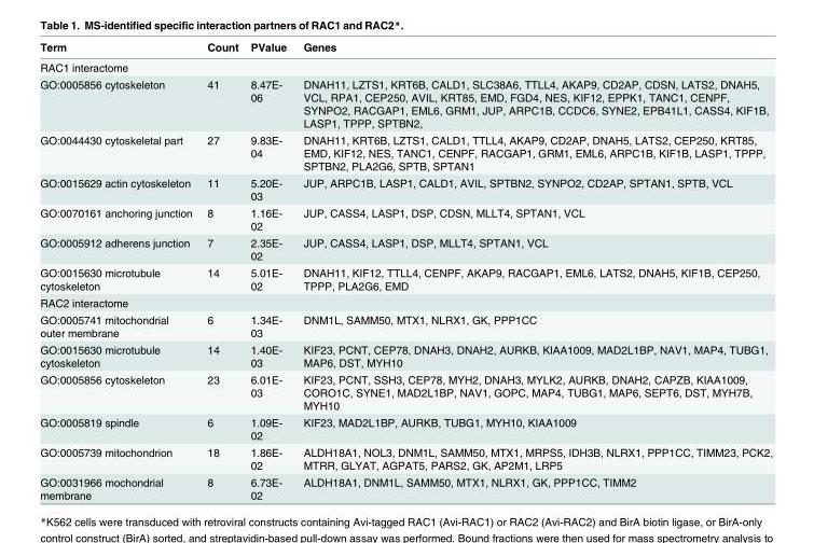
<table><thead><tr><td>Term</td><td>Count</td><td>PValue</td><td>Genes</td></tr></thead><tbody><tr><td colspan="4">RAC1 interactome</td></tr><tr><td>GO:0005856 cytoskeleton</td><td>41</td><td>8.47E- 06</td><td>DNAH11, LZTS1, KRT6B, CALD1, SLC38A6, TTLL4, AKAP9, CD2AP, CDSN, LATS2, DNAH5, VCL, RPA1, CEP250, AVIL, KRT85, EMD, FGD4, NES, KIF12, EPPK1, TANC1, CENPF, SYNPO2, RACGAP1, EML6, GRM1, JUP, ARPC1B, CCDC6, SYNE2, EPB41L1, CASS4, KIF1B, LASP1, TPPP, SPTBN2,</td></tr><tr><td>GO:0044430 cytoskeletal part</td><td>27</td><td>9.83E- 04</td><td>DNAH11, KRT6B, LZTS1, CALD1, TTLL4, AKAP9, CD2AP, DNAH5, LATS2, CEP250, KRT85, EMD, KIF12, NES, TANC1, CENPF, RACGAP1, GRM1, EML6, ARPC1B, KIF1B, LASP1, TPPP, SPTBN2, PLA2G6, SPTB, SPTAN1</td></tr><tr><td>GO:0015629 actin cytoskeleton</td><td>11</td><td>5.20E- 03</td><td>JUP, ARPC1B, LASP1, CALD1, AVIL, SPTBN2, SYNPO2, CD2AP, SPTAN1, SPTB, VCL</td></tr><tr><td>GO:0070161 anchoring junction</td><td>8</td><td>1.16E- 02</td><td>JUP, CASS4, LASP1, DSP, CDSN, MLLT4, SPTAN1, VCL</td></tr><tr><td>GO:0005912 adherens junction</td><td>7</td><td>2.35E- 02</td><td>JUP, CASS4, LASP1, DSP, MLLT4, SPTAN1, VCL</td></tr><tr><td>GO:0015630 microtubule cytoskeleton</td><td>14</td><td>5.01E- 02</td><td>DNAH11, KIF12, TTLL4, CENPF, AKAP9, RACGAP1, EML6, LATS2, DNAH5, KIF1B, CEP250, TPPP, PLA2G6, EMD</td></tr><tr><td colspan="4">RAC2 interactome</td></tr><tr><td>GO:0005741 mitochondrial outer membrane</td><td>6</td><td>1.34E- 03</td><td>DNM1L, SAMM50, MTX1, NLRX1, GK, PPP1CC</td></tr><tr><td>GO:0015630 microtubule cytoskeleton</td><td>14</td><td>1.40E- 03</td><td>KIF23, PCNT, CEP78, DNAH3, DNAH2, AURKB, KIAA1009, MAD2L1BP, NAV1, MAP4, TUBG1, MAP6, DST, MYH10</td></tr><tr><td>GO:0005856 cytoskeleton</td><td>23</td><td>6.01E- 03</td><td>KIF23, PCNT, SSH3, CEP78, MYH2, DNAH3, MYLK2, AURKB, DNAH2, CAPZB, KIAA1009, CORO1C, SYNE1, MAD2L1BP, NAV1, GOPC, MAP4, TUBG1, MAP6, SEPT6, DST, MYH7B, MYH10</td></tr><tr><td>GO:0005819 spindle</td><td>6</td><td>1.09E- 02</td><td>KIF23, MAD2L1BP, AURKB, TUBG1, MYH10, KIAA1009</td></tr><tr><td>GO:0005739 mitochondrion</td><td>18</td><td>1.86E- 02</td><td>ALDH18A1, NOL3, DNM1L, SAMM50, MTX1, MRPS5, IDH3B, NLRX1, PPP1CC, TIMM23, PCK2, MTRR, GLYAT, AGPAT5, PARS2, GK, AP2M1, LRP5</td></tr><tr><td>GO:0031966 mochondrial membrane</td><td>8</td><td>6.73E- 02</td><td>ALDH18A1, DNM1L, SAMM50, MTX1, NLRX1, GK, PPP1CC, TIMM2</td></tr></tbody></table>